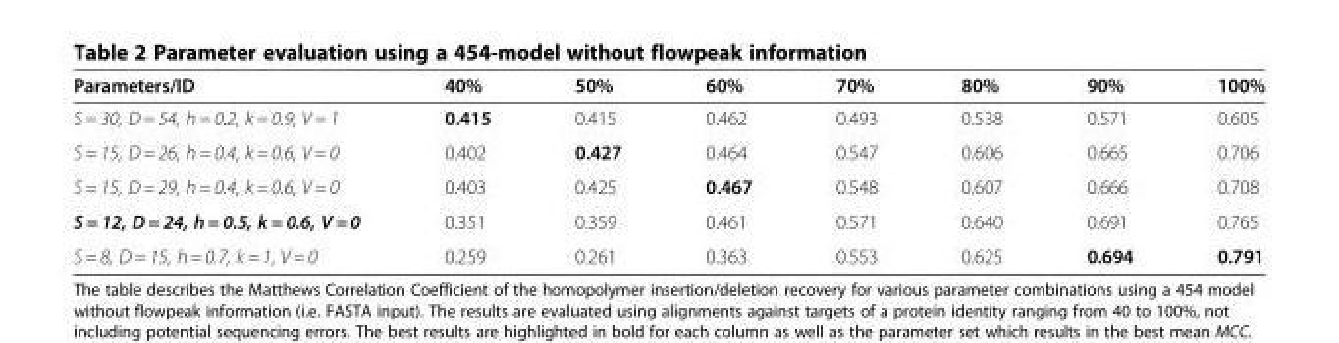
<table><thead><tr><td>Parameters/ID</td><td>40%</td><td>50%</td><td>60%</td><td>70%</td><td>80%</td><td>90%</td><td>100%</td></tr></thead><tbody><tr><td>S = 30, D = 54, h = 0.2, k = 0.9, V = 1</td><td>0.415</td><td>0.415</td><td>0.462</td><td>0.493</td><td>0.538</td><td>0.571</td><td>0.605</td></tr><tr><td>S = 15, D = 26, h = 0.4, k = 0.6, V = 0</td><td>0.402</td><td>0.427</td><td>0.464</td><td>0.547</td><td>0.606</td><td>0.665</td><td>0.706</td></tr><tr><td>S = 15, D = 29, h = 0.4, k = 0.6, V = 0</td><td>0.403</td><td>0.425</td><td>0.467</td><td>0.548</td><td>0.607</td><td>0.666</td><td>0.708</td></tr><tr><td>S = 12, D = 24, h = 0.5, k = 0.6, V = 0</td><td>0.351</td><td>0.359</td><td>0.461</td><td>0.571</td><td>0.640</td><td>0.691</td><td>0.765</td></tr><tr><td>S = 8, D = 15, h = 0.7, k = 1, V = 0</td><td>0.259</td><td>0.261</td><td>0.363</td><td>0.553</td><td>0.625</td><td>0.694</td><td>0.791</td></tr></tbody></table>